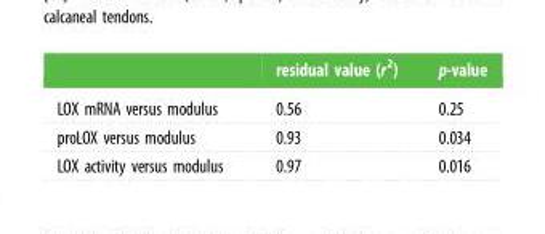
<table><thead><tr><td></td><td>residual value (r<sup>2</sup>)</td><td>p-value</td></tr></thead><tbody><tr><td>LOX mRNA versus modulus</td><td>0.56</td><td>0.25</td></tr><tr><td>proLOX versus modulus</td><td>0.93</td><td>0.034</td></tr><tr><td>LOX activity versus modulus</td><td>0.97</td><td>0.016</td></tr></tbody></table>